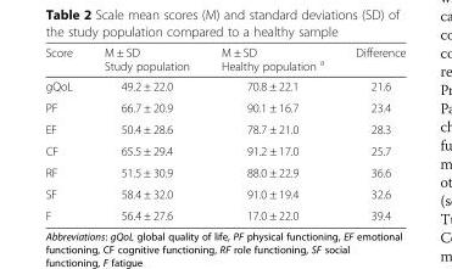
<table><thead><tr><td>Score</td><td>M ± SD Study population</td><td>M ± SD Healthy population <sup>a</sup></td><td>Difference</td></tr></thead><tbody><tr><td>gQoL</td><td>49.2 ± 22.0</td><td>70.8 ± 22.1</td><td>21.6</td></tr><tr><td>PF</td><td>66.7 ± 20.9</td><td>90.1 ± 16.7</td><td>23.4</td></tr><tr><td>EF</td><td>50.4 ± 28.6</td><td>78.7 ± 21.0</td><td>28.3</td></tr><tr><td>CF</td><td>65.5 ± 29.4</td><td>91.2 ± 17.0</td><td>25.7</td></tr><tr><td>RF</td><td>51.5 ± 30.9</td><td>88.0 ± 22.9</td><td>36.6</td></tr><tr><td>SF</td><td>58.4 ± 32.0</td><td>91.0 ± 19.4</td><td>32.6</td></tr><tr><td>F</td><td>56.4 ± 27.6</td><td>17.0 ± 22.0</td><td>39.4</td></tr></tbody></table>